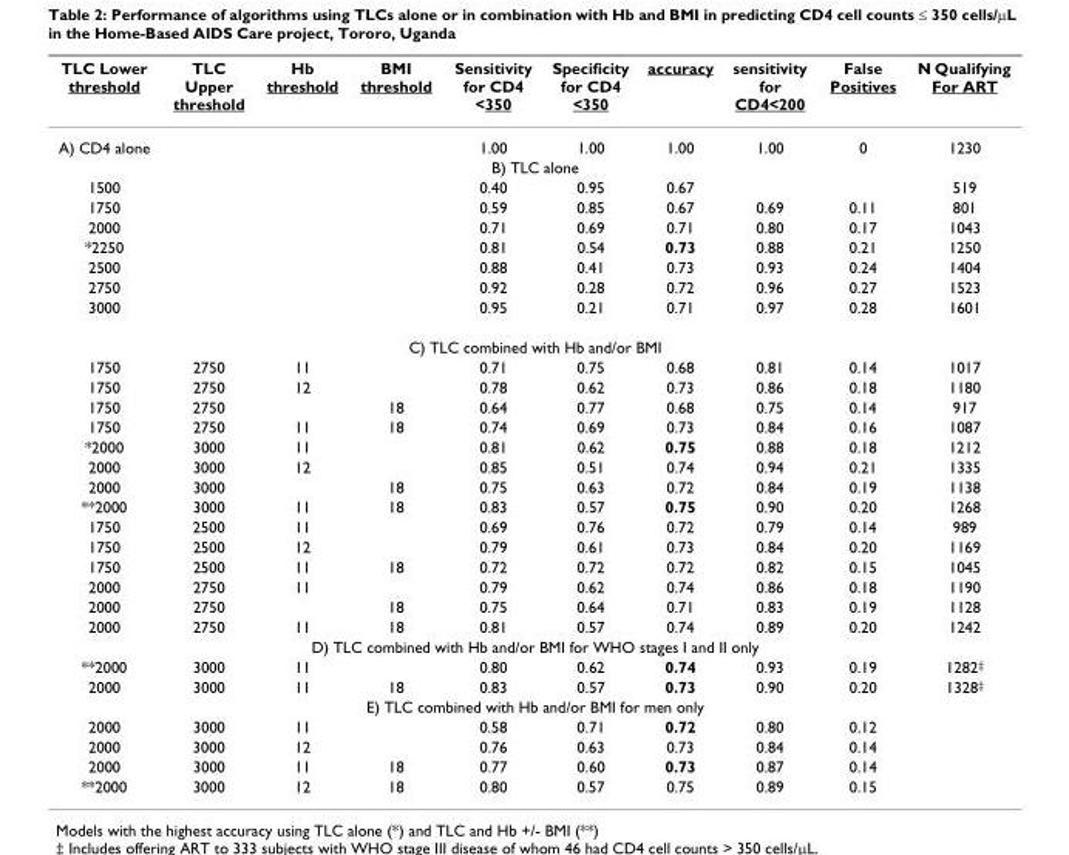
<table><thead><tr><td>TLC Lower threshold</td><td>TLC Upper threshold</td><td>Hb threshold</td><td>BMI threshold</td><td>Sensitivity for CD4 &lt;350</td><td>Specificity for CD4 &lt;350</td><td>accuracy</td><td>sensitivity for CD4&lt;200</td><td>False Positives</td><td>N Qualifying For ART</td></tr></thead><tbody><tr><td>A) CD4 alone</td><td></td><td></td><td></td><td>1.00</td><td>1.00</td><td>1.00</td><td>1.00</td><td>0</td><td>1230</td></tr><tr><td colspan="10">B) TLC alone</td></tr><tr><td>1500</td><td></td><td></td><td></td><td>0.40</td><td>0.95</td><td>0.67</td><td></td><td></td><td>519</td></tr><tr><td>1750</td><td></td><td></td><td></td><td>0.59</td><td>0.85</td><td>0.67</td><td>0.69</td><td>0.11</td><td>801</td></tr><tr><td>2000</td><td></td><td></td><td></td><td>0.71</td><td>0.69</td><td>0.71</td><td>0.80</td><td>0.17</td><td>1043</td></tr><tr><td>*2250</td><td></td><td></td><td></td><td>0.81</td><td>0.54</td><td>0.73</td><td>0.88</td><td>0.21</td><td>1250</td></tr><tr><td>2500</td><td></td><td></td><td></td><td>0.88</td><td>0.41</td><td>0.73</td><td>0.93</td><td>0.24</td><td>1404</td></tr><tr><td>2750</td><td></td><td></td><td></td><td>0.92</td><td>0.28</td><td>0.72</td><td>0.96</td><td>0.27</td><td>1523</td></tr><tr><td>3000</td><td></td><td></td><td></td><td>0.95</td><td>0.21</td><td>0.71</td><td>0.97</td><td>0.28</td><td>1601</td></tr><tr><td colspan="10">C) TLC combined with Hb and/or BMI</td></tr><tr><td>1750</td><td>2750</td><td>11</td><td></td><td>0.71</td><td>0.75</td><td>0.68</td><td>0.81</td><td>0.14</td><td>1017</td></tr><tr><td>1750</td><td>2750</td><td>12</td><td></td><td>0.78</td><td>0.62</td><td>0.73</td><td>0.86</td><td>0.18</td><td>1180</td></tr><tr><td>1750</td><td>2750</td><td></td><td>18</td><td>0.64</td><td>0.77</td><td>0.68</td><td>0.75</td><td>0.14</td><td>917</td></tr><tr><td>1750</td><td>2750</td><td>11</td><td>18</td><td>0.74</td><td>0.69</td><td>0.73</td><td>0.84</td><td>0.16</td><td>1087</td></tr><tr><td>*2000</td><td>3000</td><td>11</td><td></td><td>0.81</td><td>0.62</td><td>0.75</td><td>0.88</td><td>0.18</td><td>1212</td></tr><tr><td>2000</td><td>3000</td><td>12</td><td></td><td>0.85</td><td>0.51</td><td>0.74</td><td>0.94</td><td>0.21</td><td>1335</td></tr><tr><td>2000</td><td>3000</td><td></td><td>18</td><td>0.75</td><td>0.63</td><td>0.72</td><td>0.84</td><td>0.19</td><td>1138</td></tr><tr><td>**2000</td><td>3000</td><td>11</td><td>18</td><td>0.83</td><td>0.57</td><td>0.75</td><td>0.90</td><td>0.20</td><td>1268</td></tr><tr><td>1750</td><td>2500</td><td>11</td><td></td><td>0.69</td><td>0.76</td><td>0.72</td><td>0.79</td><td>0.14</td><td>989</td></tr><tr><td>1750</td><td>2500</td><td>12</td><td></td><td>0.79</td><td>0.61</td><td>0.73</td><td>0.84</td><td>0.20</td><td>1169</td></tr><tr><td>1750</td><td>2500</td><td>11</td><td>18</td><td>0.72</td><td>0.72</td><td>0.72</td><td>0.82</td><td>0.15</td><td>1045</td></tr><tr><td>2000</td><td>2750</td><td>11</td><td></td><td>0.79</td><td>0.62</td><td>0.74</td><td>0.86</td><td>0.18</td><td>1190</td></tr><tr><td>2000</td><td>2750</td><td></td><td>18</td><td>0.75</td><td>0.64</td><td>0.71</td><td>0.83</td><td>0.19</td><td>1128</td></tr><tr><td>2000</td><td>2750</td><td>11</td><td>18</td><td>0.81</td><td>0.57</td><td>0.74</td><td>0.89</td><td>0.20</td><td>1242</td></tr><tr><td colspan="10">D) TLC combined with Hb and/or BMI for WHO stages I and II only</td></tr><tr><td>**2000</td><td>3000</td><td>11</td><td></td><td>0.80</td><td>0.62</td><td>0.74</td><td>0.93</td><td>0.19</td><td>1282<sup>‡</sup></td></tr><tr><td>2000</td><td>3000</td><td>11</td><td>18</td><td>0.83</td><td>0.57</td><td>0.73</td><td>0.90</td><td>0.20</td><td>1328<sup>‡</sup></td></tr><tr><td colspan="10">E) TLC combined with Hb and/or BMI for men only</td></tr><tr><td>2000</td><td>3000</td><td>11</td><td></td><td>0.58</td><td>0.71</td><td>0.72</td><td>0.80</td><td>0.12</td><td></td></tr><tr><td>2000</td><td>3000</td><td>12</td><td></td><td>0.76</td><td>0.63</td><td>0.73</td><td>0.84</td><td>0.14</td><td></td></tr><tr><td>2000</td><td>3000</td><td>11</td><td>18</td><td>0.77</td><td>0.60</td><td>0.73</td><td>0.87</td><td>0.14</td><td></td></tr><tr><td>**2000</td><td>3000</td><td>12</td><td>18</td><td>0.80</td><td>0.57</td><td>0.75</td><td>0.89</td><td>0.15</td><td></td></tr></tbody></table>